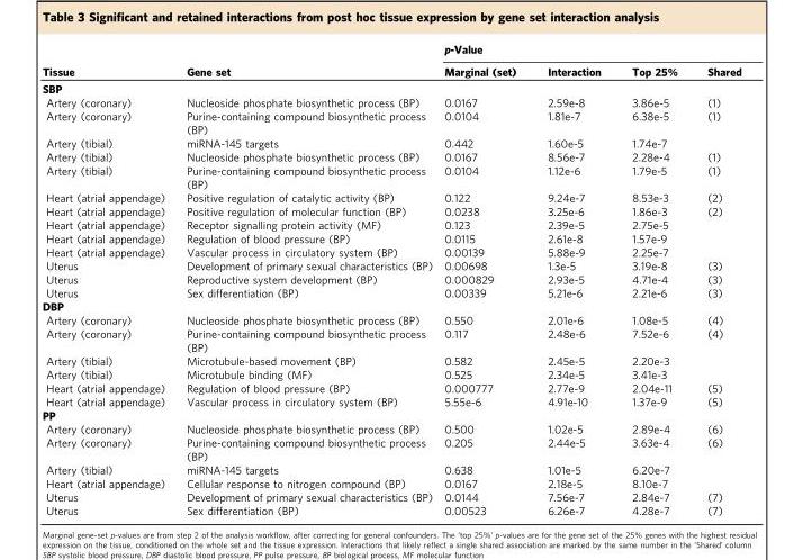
<table><thead><tr><td rowspan="2">Tissue</td><td rowspan="2">Gene set</td><td colspan="4">p-Value</td></tr><tr><td>Marginal (set)</td><td>Interaction</td><td>Top 25%</td><td>Shared</td></tr></thead><tbody><tr><td colspan="6">SBP</td></tr><tr><td>Artery (coronary)</td><td>Nucleoside phosphate biosynthetic process (BP)</td><td>0.0167</td><td>2.59e-8</td><td>3.86e-5</td><td>(1)</td></tr><tr><td>Artery (coronary)</td><td>Purine-containing compound biosynthetic process (BP)</td><td>0.0104</td><td>1.81e-7</td><td>6.38e-5</td><td>(1)</td></tr><tr><td>Artery (tibial)</td><td>miRNA-145 targets</td><td>0.442</td><td>1.60e-5</td><td>1.74e-7</td><td></td></tr><tr><td>Artery (tibial)</td><td>Nucleoside phosphate biosynthetic process (BP)</td><td>0.0167</td><td>8.56e-7</td><td>2.28e-4</td><td>(1)</td></tr><tr><td>Artery (tibial)</td><td>Purine-containing compound biosynthetic process (BP)</td><td>0.0104</td><td>1.12e-6</td><td>1.79e-5</td><td>(1)</td></tr><tr><td>Heart (atrial appendage)</td><td>Positive regulation of catalytic activity (BP)</td><td>0.122</td><td>9.24e-7</td><td>8.53e-3</td><td>(2)</td></tr><tr><td>Heart (atrial appendage)</td><td>Positive regulation of molecular function (BP)</td><td>0.0238</td><td>3.25e-6</td><td>1.86e-3</td><td>(2)</td></tr><tr><td>Heart (atrial appendage)</td><td>Receptor signalling protein activity (MF)</td><td>0.123</td><td>2.39e-5</td><td>2.75e-5</td><td></td></tr><tr><td>Heart (atrial appendage)</td><td>Regulation of blood pressure (BP)</td><td>0.0115</td><td>2.61e-8</td><td>1.57e-9</td><td></td></tr><tr><td>Heart (atrial appendage)</td><td>Vascular process in circulatory system (BP)</td><td>0.00139</td><td>5.88e-9</td><td>2.25e-7</td><td></td></tr><tr><td>Uterus</td><td>Development of primary sexual characteristics (BP)</td><td>0.00698</td><td>1.3e-5</td><td>3.19e-8</td><td>(3)</td></tr><tr><td>Uterus</td><td>Reproductive system development (BP)</td><td>0.000829</td><td>2.93e-5</td><td>4.71e-4</td><td>(3)</td></tr><tr><td>Uterus</td><td>Sex differentiation (BP)</td><td>0.00339</td><td>5.21e-6</td><td>2.21e-6</td><td>(3)</td></tr><tr><td colspan="6">DBP</td></tr><tr><td>Artery (coronary)</td><td>Nucleoside phosphate biosynthetic process (BP)</td><td>0.550</td><td>2.01e-6</td><td>1.08e-5</td><td>(4)</td></tr><tr><td>Artery (coronary)</td><td>Purine-containing compound biosynthetic process (BP)</td><td>0.117</td><td>2.48e-6</td><td>7.52e-6</td><td>(4)</td></tr><tr><td>Artery (tibial)</td><td>Microtubule-based movement (BP)</td><td>0.582</td><td>2.45e-5</td><td>2.20e-3</td><td></td></tr><tr><td>Artery (tibial)</td><td>Microtubule binding (MF)</td><td>0.525</td><td>2.34e-5</td><td>3.41e-3</td><td></td></tr><tr><td>Heart (atrial appendage)</td><td>Regulation of blood pressure (BP)</td><td>0.000777</td><td>2.77e-9</td><td>2.04e-11</td><td>(5)</td></tr><tr><td>Heart (atrial appendage)</td><td>Vascular process in circulatory system (BP)</td><td>5.55e-6</td><td>4.91e-10</td><td>1.37e-9</td><td>(5)</td></tr><tr><td colspan="6">PP</td></tr><tr><td>Artery (coronary)</td><td>Nucleoside phosphate biosynthetic process (BP)</td><td>0.500</td><td>1.02e-5</td><td>2.89e-4</td><td>(6)</td></tr><tr><td>Artery (coronary)</td><td>Purine-containing compound biosynthetic process (BP)</td><td>0.205</td><td>2.44e-5</td><td>3.63e-4</td><td>(6)</td></tr><tr><td>Artery (tibial)</td><td>miRNA-145 targets</td><td>0.638</td><td>1.01e-5</td><td>6.20e-7</td><td></td></tr><tr><td>Heart (atrial appendage)</td><td>Cellular response to nitrogen compound (BP)</td><td>0.0167</td><td>2.18e-5</td><td>8.10e-7</td><td></td></tr><tr><td>Uterus</td><td>Development of primary sexual characteristics (BP)</td><td>0.0144</td><td>7.56e-7</td><td>2.84e-7</td><td>(7)</td></tr><tr><td>Uterus</td><td>Sex differentiation (BP)</td><td>0.00523</td><td>6.26e-7</td><td>4.28e-7</td><td>(7)</td></tr></tbody></table>